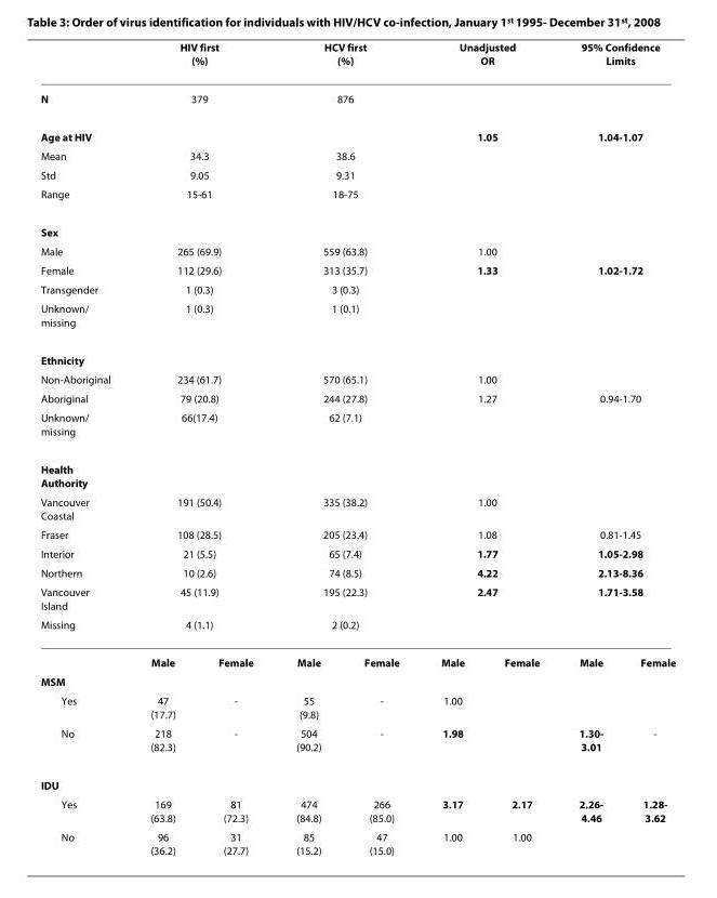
<table><thead><tr><td rowspan="3">N Age at HIV</td><td rowspan="2" colspan="2">HIV first (%) 379</td><td rowspan="2" colspan="2">HCV first (%) 876</td><td colspan="2">Unadjusted OR</td><td colspan="2">95% Confidence Limits</td></tr><tr><td></td><td></td><td></td><td></td></tr><tr><td></td><td></td><td></td><td></td><td colspan="2">1.05</td><td colspan="2">1.04-1.07</td></tr></thead><tbody><tr><td>Mean</td><td colspan="2">34.3</td><td colspan="2">38.6</td><td></td><td></td><td></td><td></td></tr><tr><td>Std</td><td colspan="2">9.05</td><td colspan="2">9.31</td><td></td><td></td><td></td><td></td></tr><tr><td>Range</td><td colspan="2">15-61</td><td colspan="2">18-75</td><td></td><td></td><td></td><td></td></tr><tr><td colspan="9">Sex</td></tr><tr><td>Male</td><td colspan="2">265 (69.9)</td><td colspan="2">559 (63.8)</td><td colspan="2">1.00</td><td></td><td></td></tr><tr><td>Female</td><td colspan="2">112 (29.6)</td><td colspan="2">313 (35.7)</td><td colspan="2">1.33</td><td colspan="2">1.02-1.72</td></tr><tr><td>Transgender</td><td colspan="2">1 (0.3)</td><td colspan="2">3 (0.3)</td><td></td><td></td><td></td><td></td></tr><tr><td>Unknown/ missing</td><td colspan="2">1 (0.3)</td><td colspan="2">1 (0.1)</td><td></td><td></td><td></td><td></td></tr><tr><td colspan="9">Ethnicity</td></tr><tr><td>Non-Aboriginal</td><td colspan="2">234 (61.7)</td><td colspan="2">570 (65.1)</td><td colspan="2">1.00</td><td></td><td></td></tr><tr><td>Aboriginal</td><td colspan="2">79 (20.8)</td><td colspan="2">244 (27.8)</td><td colspan="2">1.27</td><td colspan="2">0.94-1.70</td></tr><tr><td>Unknown/ missing</td><td colspan="2">66(17.4)</td><td colspan="2">62 (7.1)</td><td></td><td></td><td></td><td></td></tr><tr><td colspan="9">Health Authority</td></tr><tr><td>Vancouver Coastal</td><td colspan="2">191 (50.4)</td><td colspan="2">335 (38.2)</td><td colspan="2">1.00</td><td></td><td></td></tr><tr><td>Fraser</td><td colspan="2">108 (28.5)</td><td colspan="2">205 (23.4)</td><td colspan="2">1.08</td><td colspan="2">0.81-1.45</td></tr><tr><td>Interior</td><td colspan="2">21 (5.5)</td><td colspan="2">65 (7.4)</td><td colspan="2">1.77</td><td colspan="2">1.05-2.98</td></tr><tr><td>Northern</td><td colspan="2">10 (2.6)</td><td colspan="2">74 (8.5)</td><td colspan="2">4.22</td><td colspan="2">2.13-8.36</td></tr><tr><td>Vancouver Island</td><td colspan="2">45 (11.9)</td><td colspan="2">195 (22.3)</td><td colspan="2">2.47</td><td colspan="2">1.71-3.58</td></tr><tr><td rowspan="2">Missing</td><td colspan="2">4 (1.1)</td><td colspan="2">2 (0.2)</td><td></td><td></td><td></td><td></td></tr><tr><td>Male</td><td>Female</td><td>Male</td><td>Female</td><td>Male</td><td>Female</td><td>Male</td><td>Female</td></tr><tr><td colspan="9">MSM</td></tr><tr><td>Yes</td><td>47 (17.7)</td><td>-</td><td>55 (9.8)</td><td>-</td><td>1.00</td><td></td><td></td><td></td></tr><tr><td>No</td><td>218 (82.3)</td><td>-</td><td>504 (90.2)</td><td>-</td><td>1.98</td><td></td><td>1.30- 3.01</td><td>-</td></tr><tr><td colspan="9">IDU</td></tr><tr><td>Yes</td><td>169 (63.8)</td><td>81 (72.3)</td><td>474 (84.8)</td><td>266 (85.0)</td><td>3.17</td><td>2.17</td><td>2.26- 4.46</td><td>1.28- 3.62</td></tr><tr><td>No</td><td>96 (36.2)</td><td>31 (27.7)</td><td>85 (15.2)</td><td>47 (15.0)</td><td>1.00</td><td>1.00</td><td></td><td></td></tr></tbody></table>